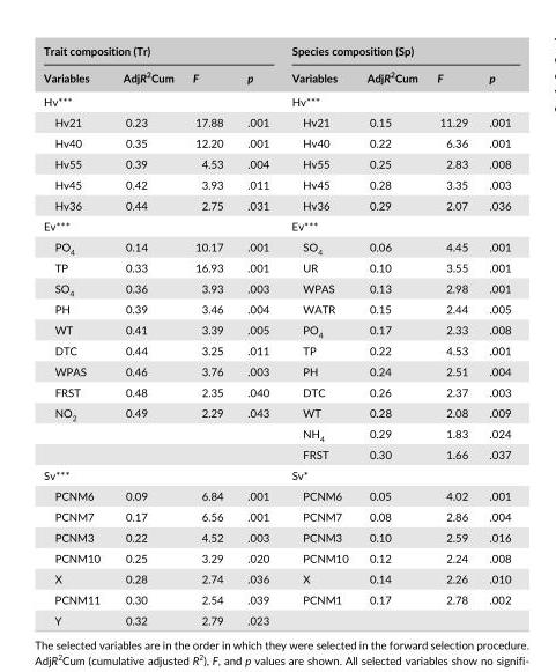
<table><thead><tr><td colspan="4">Trait composition (Tr)</td><td colspan="4">Species composition (Sp)</td></tr><tr><td>Variables</td><td>AdjR<sup>2</sup>Cum</td><td>F</td><td>p</td><td>Variables</td><td>AdjR<sup>2</sup>Cum</td><td>F</td><td>p</td></tr></thead><tbody><tr><td>Hv***</td><td></td><td></td><td></td><td>Hv***</td><td></td><td></td><td></td></tr><tr><td>Hv21</td><td>0.23</td><td>17.88</td><td>.001</td><td>Hv21</td><td>0.15</td><td>11.29</td><td>.001</td></tr><tr><td>Hv40</td><td>0.35</td><td>12.20</td><td>.001</td><td>Hv40</td><td>0.22</td><td>6.36</td><td>.001</td></tr><tr><td>Hv55</td><td>0.39</td><td>4.53</td><td>.004</td><td>Hv55</td><td>0.25</td><td>2.83</td><td>.008</td></tr><tr><td>Hv45</td><td>0.42</td><td>3.93</td><td>.011</td><td>Hv45</td><td>0.28</td><td>3.35</td><td>.003</td></tr><tr><td>Hv36</td><td>0.44</td><td>2.75</td><td>.031</td><td>Hv36</td><td>0.29</td><td>2.07</td><td>.036</td></tr><tr><td>Ev***</td><td></td><td></td><td></td><td>Ev***</td><td></td><td></td><td></td></tr><tr><td>PO<sub>4</sub></td><td>0.14</td><td>10.17</td><td>.001</td><td>SO<sub>4</sub></td><td>0.06</td><td>4.45</td><td>.001</td></tr><tr><td>TP</td><td>0.33</td><td>16.93</td><td>.001</td><td>UR</td><td>0.10</td><td>3.55</td><td>.001</td></tr><tr><td>SO<sub>4</sub></td><td>0.36</td><td>3.93</td><td>.003</td><td>WPAS</td><td>0.13</td><td>2.98</td><td>.001</td></tr><tr><td>PH</td><td>0.39</td><td>3.46</td><td>.004</td><td>WATR</td><td>0.15</td><td>2.44</td><td>.005</td></tr><tr><td>WT</td><td>0.41</td><td>3.39</td><td>.005</td><td>PO<sub>4</sub></td><td>0.17</td><td>2.33</td><td>.008</td></tr><tr><td>DTC</td><td>0.44</td><td>3.25</td><td>.011</td><td>TP</td><td>0.22</td><td>4.53</td><td>.001</td></tr><tr><td>WPAS</td><td>0.46</td><td>3.76</td><td>.003</td><td>PH</td><td>0.24</td><td>2.51</td><td>.004</td></tr><tr><td>FRST</td><td>0.48</td><td>2.35</td><td>.040</td><td>DTC</td><td>0.26</td><td>2.37</td><td>.003</td></tr><tr><td rowspan="3">NO<sub>2</sub></td><td>0.49</td><td>2.29</td><td>.043</td><td>WT</td><td>0.28</td><td>2.08</td><td>.009</td></tr><tr><td></td><td></td><td></td><td>NH<sub>4</sub></td><td>0.29</td><td>1.83</td><td>.024</td></tr><tr><td></td><td></td><td></td><td>FRST</td><td>0.30</td><td>1.66</td><td>.037</td></tr><tr><td>Sv***</td><td></td><td></td><td></td><td>Sv*</td><td></td><td></td><td></td></tr><tr><td>PCNM6</td><td>0.09</td><td>6.84</td><td>.001</td><td>PCNM6</td><td>0.05</td><td>4.02</td><td>.001</td></tr><tr><td>PCNM7</td><td>0.17</td><td>6.56</td><td>.001</td><td>PCNM7</td><td>0.08</td><td>2.86</td><td>.004</td></tr><tr><td>PCNM3</td><td>0.22</td><td>4.52</td><td>.003</td><td>PCNM3</td><td>0.10</td><td>2.59</td><td>.016</td></tr><tr><td>PCNM10</td><td>0.25</td><td>3.29</td><td>.020</td><td>PCNM10</td><td>0.12</td><td>2.24</td><td>.008</td></tr><tr><td>X</td><td>0.28</td><td>2.74</td><td>.036</td><td>X</td><td>0.14</td><td>2.26</td><td>.010</td></tr><tr><td>PCNM11</td><td>0.30</td><td>2.54</td><td>.039</td><td>PCNM1</td><td>0.17</td><td>2.78</td><td>.002</td></tr><tr><td>Y</td><td>0.32</td><td>2.79</td><td>.023</td><td></td><td></td><td></td><td></td></tr></tbody></table>